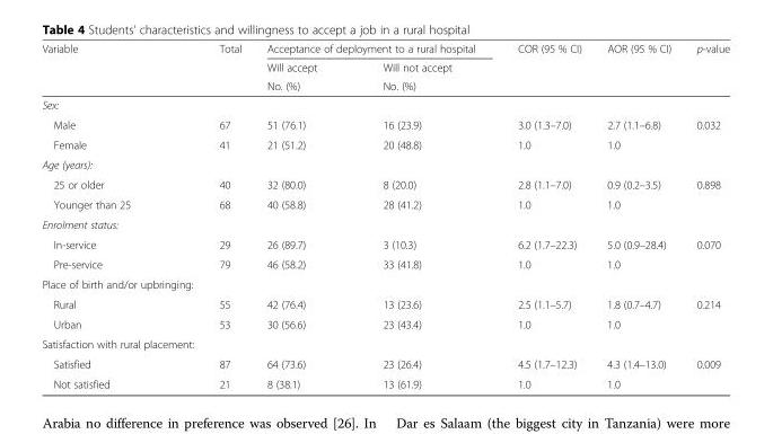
<table><thead><tr><td rowspan="3">Variable</td><td rowspan="3">Total</td><td colspan="2">Acceptance of deployment to a rural hospital</td><td rowspan="3">COR (95 % CI)</td><td rowspan="3">AOR (95 % CI)</td><td rowspan="3">p-value</td></tr><tr><td rowspan="2">Will accept No. (%)</td><td rowspan="2">Will not accept No. (%)</td></tr><tr></tr></thead><tbody><tr><td colspan="7">Sex:</td></tr><tr><td>Male</td><td>67</td><td>51 (76.1)</td><td>16 (23.9)</td><td>3.0 (1.3–7.0)</td><td>2.7 (1.1–6.8)</td><td>0.032</td></tr><tr><td>Female</td><td>41</td><td>21 (51.2)</td><td>20 (48.8)</td><td>1.0</td><td>1.0</td><td></td></tr><tr><td colspan="7">Age (years):</td></tr><tr><td>25 or older</td><td>40</td><td>32 (80.0)</td><td>8 (20.0)</td><td>2.8 (1.1–7.0)</td><td>0.9 (0.2–3.5)</td><td>0.898</td></tr><tr><td>Younger than 25</td><td>68</td><td>40 (58.8)</td><td>28 (41.2)</td><td>1.0</td><td>1.0</td><td></td></tr><tr><td colspan="7">Enrolment status:</td></tr><tr><td>In-service</td><td>29</td><td>26 (89.7)</td><td>3 (10.3)</td><td>6.2 (1.7–22.3)</td><td>5.0 (0.9–28.4)</td><td>0.070</td></tr><tr><td>Pre-service</td><td>79</td><td>46 (58.2)</td><td>33 (41.8)</td><td>1.0</td><td>1.0</td><td></td></tr><tr><td colspan="7">Place of birth and/or upbringing:</td></tr><tr><td>Rural</td><td>55</td><td>42 (76.4)</td><td>13 (23.6)</td><td>2.5 (1.1–5.7)</td><td>1.8 (0.7–4.7)</td><td>0.214</td></tr><tr><td>Urban</td><td>53</td><td>30 (56.6)</td><td>23 (43.4)</td><td>1.0</td><td>1.0</td><td></td></tr><tr><td colspan="7">Satisfaction with rural placement:</td></tr><tr><td>Satisfied</td><td>87</td><td>64 (73.6)</td><td>23 (26.4)</td><td>4.5 (1.7–12.3)</td><td>4.3 (1.4–13.0)</td><td>0.009</td></tr><tr><td>Not satisfied</td><td>21</td><td>8 (38.1)</td><td>13 (61.9)</td><td>1.0</td><td>1.0</td><td></td></tr></tbody></table>